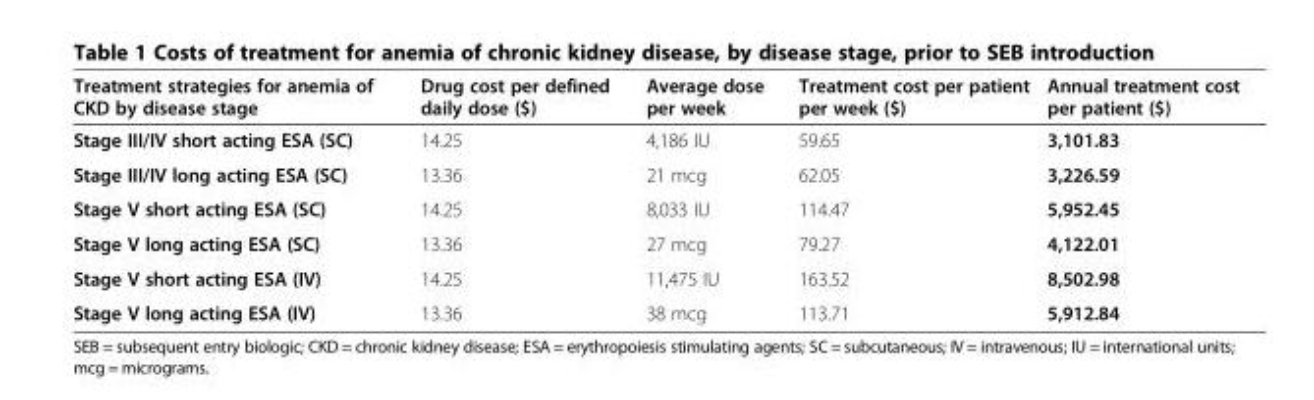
<table><thead><tr><td>Treatment strategies for anemia of CKD by disease stage</td><td>Drug cost per defined daily dose ($)</td><td>Average dose per week</td><td>Treatment cost per patient per week ($)</td><td>Annual treatment cost per patient ($)</td></tr></thead><tbody><tr><td>Stage III/IV short acting ESA (SC)</td><td>14.25</td><td>4,186 IU</td><td>59.65</td><td>3,101.83</td></tr><tr><td>Stage III/IV long acting ESA (SC)</td><td>13.36</td><td>21 mcg</td><td>62.05</td><td>3,226.59</td></tr><tr><td>Stage V short acting ESA (SC)</td><td>14.25</td><td>8,033 IU</td><td>114.47</td><td>5,952.45</td></tr><tr><td>Stage V long acting ESA (SC)</td><td>13.36</td><td>27 mcg</td><td>79.27</td><td>4,122.01</td></tr><tr><td>Stage V short acting ESA (IV)</td><td>14.25</td><td>11,475 IU</td><td>163.52</td><td>8,502.98</td></tr><tr><td>Stage V long acting ESA (IV)</td><td>13.36</td><td>38 mcg</td><td>113.71</td><td>5,912.84</td></tr></tbody></table>